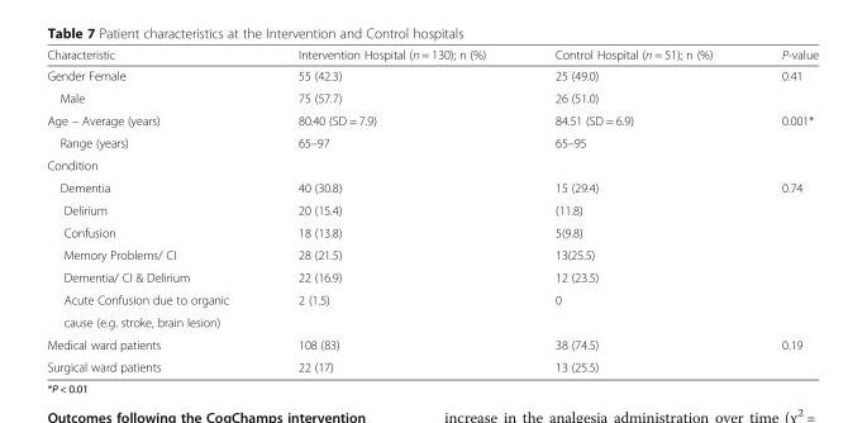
<table><thead><tr><td>Characteristic</td><td>Intervention Hospital (n = 130); n (%)</td><td>Control Hospital (n = 51); n (%)</td><td>P-value</td></tr></thead><tbody><tr><td>Gender Female</td><td>55 (42.3)</td><td>25 (49.0)</td><td>0.41</td></tr><tr><td>Male</td><td>75 (57.7)</td><td>26 (51.0)</td><td></td></tr><tr><td>Age – Average (years)</td><td>80.40 (SD = 7.9)</td><td>84.51 (SD = 6.9)</td><td>0.001*</td></tr><tr><td>Range (years)</td><td>65–97</td><td>65–95</td><td></td></tr><tr><td colspan="4">Condition</td></tr><tr><td>Dementia</td><td>40 (30.8)</td><td>15 (29.4)</td><td rowspan="7">0.74</td></tr><tr><td>Delirium</td><td>20 (15.4)</td><td>(11.8)</td></tr><tr><td>Confusion</td><td>18 (13.8)</td><td>5(9.8)</td></tr><tr><td>Memory Problems/ CI</td><td>28 (21.5)</td><td>13(25.5)</td></tr><tr><td>Dementia/ CI &amp; Delirium</td><td>22 (16.9)</td><td>12 (23.5)</td></tr><tr><td>Acute Confusion due to organic</td><td rowspan="2">2 (1.5)</td><td rowspan="2">0</td></tr><tr><td>cause (e.g. stroke, brain lesion)</td></tr><tr><td>Medical ward patients</td><td>108 (83)</td><td>38 (74.5)</td><td>0.19</td></tr><tr><td>Surgical ward patients</td><td>22 (17)</td><td>13 (25.5)</td><td></td></tr></tbody></table>